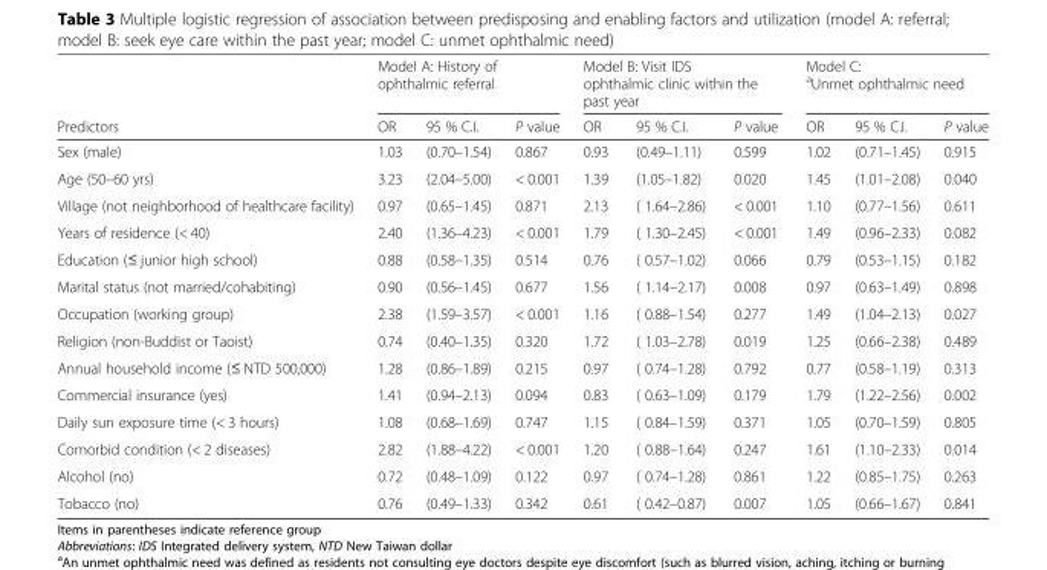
<table><thead><tr><td rowspan="2">Predictors</td><td colspan="3">Model A: History of ophthalmic referral</td><td colspan="3">Model B: Visit IDS ophthalmic clinic within the past year</td><td colspan="3">Model C: <sup>a</sup>Unmet ophthalmic need</td></tr><tr><td>OR</td><td>95 % C.I.</td><td>P value</td><td>OR</td><td>95 % C.I.</td><td>P value</td><td>OR</td><td>95 % C.I.</td><td>P value</td></tr></thead><tbody><tr><td>Sex (male)</td><td>1.03</td><td>(0.70–1.54)</td><td>0.867</td><td>0.93</td><td>(0.49–1.11)</td><td>0.599</td><td>1.02</td><td>(0.71–1.45)</td><td>0.915</td></tr><tr><td>Age (50–60 yrs)</td><td>3.23</td><td>(2.04–5.00)</td><td>&lt; 0.001</td><td>1.39</td><td>(1.05–1.82)</td><td>0.020</td><td>1.45</td><td>(1.01–2.08)</td><td>0.040</td></tr><tr><td>Village (not neighborhood of healthcare facility)</td><td>0.97</td><td>(0.65–1.45)</td><td>0.871</td><td>2.13</td><td>( 1.64–2.86)</td><td>&lt; 0.001</td><td>1.10</td><td>(0.77–1.56)</td><td>0.611</td></tr><tr><td>Years of residence (&lt; 40)</td><td>2.40</td><td>(1.36–4.23)</td><td>&lt; 0.001</td><td>1.79</td><td>( 1.30–2.45)</td><td>&lt; 0.001</td><td>1.49</td><td>(0.96–2.33)</td><td>0.082</td></tr><tr><td>Education (≤ junior high school)</td><td>0.88</td><td>(0.58–1.35)</td><td>0.514</td><td>0.76</td><td>( 0.57–1.02)</td><td>0.066</td><td>0.79</td><td>(0.53–1.15)</td><td>0.182</td></tr><tr><td>Marital status (not married/cohabiting)</td><td>0.90</td><td>(0.56–1.45)</td><td>0.677</td><td>1.56</td><td>( 1.14–2.17)</td><td>0.008</td><td>0.97</td><td>(0.63–1.49)</td><td>0.898</td></tr><tr><td>Occupation (working group)</td><td>2.38</td><td>(1.59–3.57)</td><td>&lt; 0.001</td><td>1.16</td><td>( 0.88–1.54)</td><td>0.277</td><td>1.49</td><td>(1.04–2.13)</td><td>0.027</td></tr><tr><td>Religion (non-Buddist or Taoist)</td><td>0.74</td><td>(0.40–1.35)</td><td>0.320</td><td>1.72</td><td>( 1.03–2.78)</td><td>0.019</td><td>1.25</td><td>(0.66–2.38)</td><td>0.489</td></tr><tr><td>Annual household income (≤ NTD 500,000)</td><td>1.28</td><td>(0.86–1.89)</td><td>0.215</td><td>0.97</td><td>( 0.74–1.28)</td><td>0.792</td><td>0.77</td><td>(0.58–1.19)</td><td>0.313</td></tr><tr><td>Commercial insurance (yes)</td><td>1.41</td><td>(0.94–2.13)</td><td>0.094</td><td>0.83</td><td>( 0.63–1.09)</td><td>0.179</td><td>1.79</td><td>(1.22–2.56)</td><td>0.002</td></tr><tr><td>Daily sun exposure time (&lt; 3 hours)</td><td>1.08</td><td>(0.68–1.69)</td><td>0.747</td><td>1.15</td><td>( 0.84–1.59)</td><td>0.371</td><td>1.05</td><td>(0.70–1.59)</td><td>0.805</td></tr><tr><td>Comorbid condition (&lt; 2 diseases)</td><td>2.82</td><td>(1.88–4.22)</td><td>&lt; 0.001</td><td>1.20</td><td>( 0.88–1.64)</td><td>0.247</td><td>1.61</td><td>(1.10–2.33)</td><td>0.014</td></tr><tr><td>Alcohol (no)</td><td>0.72</td><td>(0.48–1.09)</td><td>0.122</td><td>0.97</td><td>( 0.74–1.28)</td><td>0.861</td><td>1.22</td><td>(0.85–1.75)</td><td>0.263</td></tr><tr><td>Tobacco (no)</td><td>0.76</td><td>(0.49–1.33)</td><td>0.342</td><td>0.61</td><td>( 0.42–0.87)</td><td>0.007</td><td>1.05</td><td>(0.66–1.67)</td><td>0.841</td></tr></tbody></table>